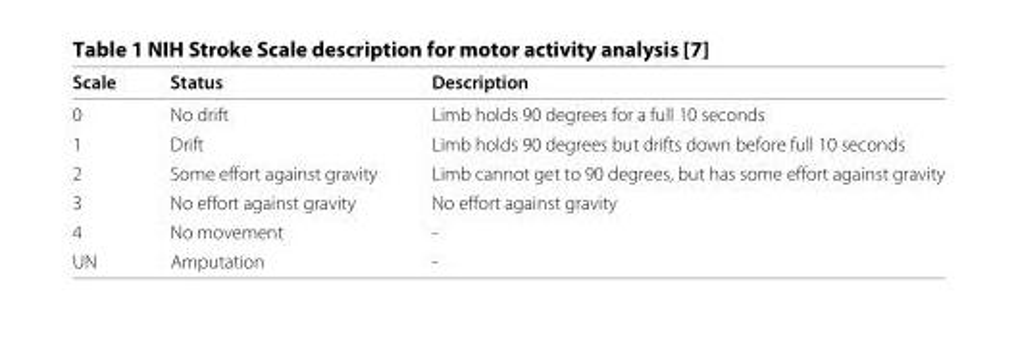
<table><thead><tr><td>Scale</td><td>Status</td><td>Description</td></tr></thead><tbody><tr><td>0</td><td>No drift</td><td>Limb holds 90 degrees for a full 10 seconds</td></tr><tr><td>1</td><td>Drift</td><td>Limb holds 90 degrees but drifts down before full 10 seconds</td></tr><tr><td>2</td><td>Some effort against gravity</td><td>Limb cannot get to 90 degrees, but has some effort against gravity</td></tr><tr><td>3</td><td>No effort against gravity</td><td>No effort against gravity</td></tr><tr><td>4</td><td>No movement</td><td>-</td></tr><tr><td>UN</td><td>Amputation</td><td>-</td></tr></tbody></table>